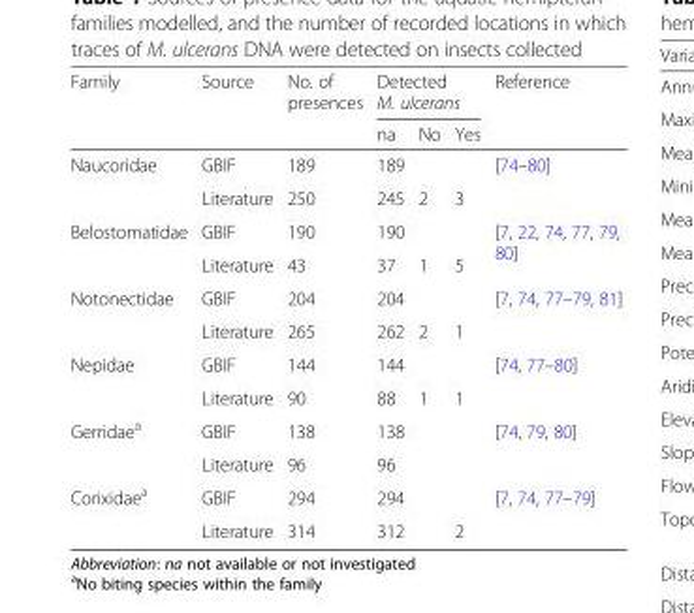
<table><thead><tr><td rowspan="2">Family</td><td rowspan="2">Source</td><td rowspan="2">No. of presences</td><td colspan="3">Detected M. ulcerans</td><td rowspan="2">Reference</td></tr><tr><td>na</td><td>No</td><td>Yes</td></tr></thead><tbody><tr><td rowspan="2">Naucoridae</td><td>GBIF</td><td>189</td><td>189</td><td></td><td></td><td rowspan="2">[74–80]</td></tr><tr><td>Literature</td><td>250</td><td>245</td><td>2</td><td>3</td></tr><tr><td rowspan="2">Belostomatidae</td><td>GBIF</td><td>190</td><td>190</td><td></td><td></td><td rowspan="2">[7, 22, 74, 77, 79, 80]</td></tr><tr><td>Literature</td><td>43</td><td>37</td><td>1</td><td>5</td></tr><tr><td rowspan="2">Notonectidae</td><td>GBIF</td><td>204</td><td>204</td><td></td><td></td><td rowspan="2">[7, 74, 77–79, 81]</td></tr><tr><td>Literature</td><td>265</td><td>262</td><td>2</td><td>1</td></tr><tr><td rowspan="2">Nepidae</td><td>GBIF</td><td>144</td><td>144</td><td></td><td></td><td rowspan="2">[74, 77–80]</td></tr><tr><td>Literature</td><td>90</td><td>88</td><td>1</td><td>1</td></tr><tr><td rowspan="2">Gerridae<sup>a</sup></td><td>GBIF</td><td>138</td><td>138</td><td></td><td></td><td rowspan="2">[74, 79, 80]</td></tr><tr><td>Literature</td><td>96</td><td>96</td><td></td><td></td></tr><tr><td rowspan="2">Corixidae<sup>a</sup></td><td>GBIF</td><td>294</td><td>294</td><td></td><td></td><td rowspan="2">[7, 74, 77–79]</td></tr><tr><td>Literature</td><td>314</td><td>312</td><td></td><td>2</td></tr></tbody></table>